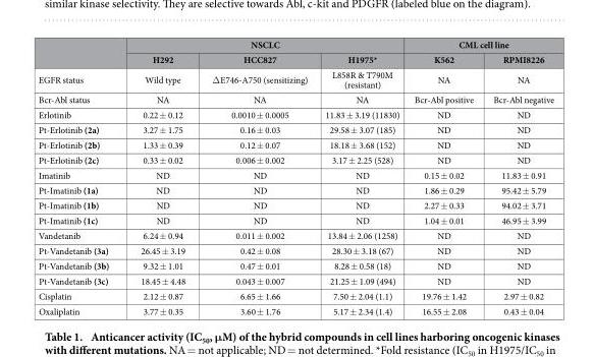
<table><thead><tr><td rowspan="2"></td><td colspan="3">NSCLC</td><td colspan="2">CML cell line</td></tr><tr><td>H292</td><td>HCC827</td><td>H1975*</td><td>K562</td><td>RPMI8226</td></tr></thead><tbody><tr><td>EGFR status</td><td>Wild type</td><td>Δ E746-A750 (sensitizing)</td><td>L858R &amp; T790M (resistant)</td><td>NA</td><td>NA</td></tr><tr><td>Bcr-Abl status</td><td>NA</td><td>NA</td><td>NA</td><td>Bcr-Abl positive</td><td>Bcr-Abl negative</td></tr><tr><td>Erlotinib</td><td>0.22 ± 0.12</td><td>0.0010 ± 0.0005</td><td>11.83 ± 3.19 (11830)</td><td>ND</td><td>ND</td></tr><tr><td>Pt-Erlotinib (2a)</td><td>3.27 ± 1.75</td><td>0.16 ± 0.03</td><td>29.58 ± 3.07 (185)</td><td>ND</td><td>ND</td></tr><tr><td>Pt-Erlotinib (2b)</td><td>1.33 ± 0.39</td><td>0.12 ± 0.07</td><td>18.18 ± 3.68 (152)</td><td>ND</td><td>ND</td></tr><tr><td>Pt-Erlotinib (2c)</td><td>0.33 ± 0.02</td><td>0.006 ± 0.002</td><td>3.17 ± 2.25 (528)</td><td>ND</td><td>ND</td></tr><tr><td>Imatinib</td><td>ND</td><td>ND</td><td>ND</td><td>0.15 ± 0.02</td><td>11.83 ± 0.91</td></tr><tr><td>Pt-Imatinib (1a)</td><td>ND</td><td>ND</td><td>ND</td><td>1.86 ± 0.29</td><td>95.42 ± 5.79</td></tr><tr><td>Pt-Imatinib (1b)</td><td>ND</td><td>ND</td><td>ND</td><td>2.27 ± 0.33</td><td>94.02 ± 3.71</td></tr><tr><td>Pt-Imatinib (1c)</td><td>ND</td><td>ND</td><td>ND</td><td>1.04 ± 0.01</td><td>46.95 ± 3.99</td></tr><tr><td>Vandetanib</td><td>6.24 ± 0.94</td><td>0.011 ± 0.002</td><td>13.84 ± 2.06 (1258)</td><td>ND</td><td>ND</td></tr><tr><td>Pt-Vandetanib (3a)</td><td>26.45 ± 3.19</td><td>0.42 ± 0.08</td><td>28.30 ± 3.18 (67)</td><td>ND</td><td>ND</td></tr><tr><td>Pt-Vandetanib (3b)</td><td>9.32 ± 1.01</td><td>0.47 ± 0.01</td><td>8.28 ± 0.58 (18)</td><td>ND</td><td>ND</td></tr><tr><td>Pt-Vandetanib (3c)</td><td>18.45 ± 4.48</td><td>0.043 ± 0.007</td><td>21.25 ± 1.09 (494)</td><td>ND</td><td>ND</td></tr><tr><td>Cisplatin</td><td>2.12 ± 0.87</td><td>6.65 ± 1.66</td><td>7.50 ± 2.04 (1.1)</td><td>19.76 ± 1.42</td><td>2.97 ± 0.82</td></tr><tr><td>Oxaliplatin</td><td>3.77 ± 0.35</td><td>3.60 ± 1.76</td><td>5.17 ± 2.34 (1.4)</td><td>16.55 ± 2.08</td><td>0.43 ± 0.04</td></tr></tbody></table>